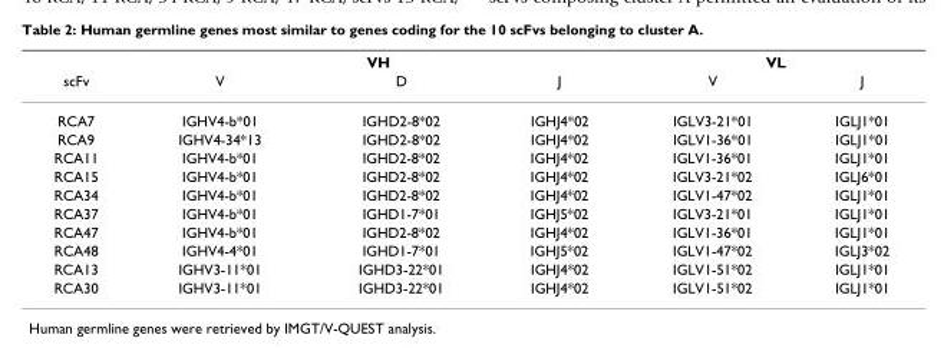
<table><thead><tr><td rowspan="2">scFv</td><td colspan="3">VH</td><td colspan="2">VL</td></tr><tr><td>V</td><td>D</td><td>J</td><td>V</td><td>J</td></tr></thead><tbody><tr><td>RCA7</td><td>IGHV4-b*01</td><td>IGHD2-8*02</td><td>IGHJ4*02</td><td>IGLV3-21*01</td><td>IGLJ1*01</td></tr><tr><td>RCA9</td><td>IGHV4-34*13</td><td>IGHD2-8*02</td><td>IGHJ4*02</td><td>IGLV1-36*01</td><td>IGLJ1*01</td></tr><tr><td>RCA11</td><td>IGHV4-b*01</td><td>IGHD2-8*02</td><td>IGHJ4*02</td><td>IGLV1-36*01</td><td>IGLJ1*01</td></tr><tr><td>RCA15</td><td>IGHV4-b*01</td><td>IGHD2-8*02</td><td>IGHJ4*02</td><td>IGLV3-21*02</td><td>IGLJ6*01</td></tr><tr><td>RCA34</td><td>IGHV4-b*01</td><td>IGHD2-8*02</td><td>IGHJ4*02</td><td>IGLV1-47*02</td><td>IGLJ1*01</td></tr><tr><td>RCA37</td><td>IGHV4-b*01</td><td>IGHD1-7*01</td><td>IGHJ5*02</td><td>IGLV3-21*01</td><td>IGLJ1*01</td></tr><tr><td>RCA47</td><td>IGHV4-b*01</td><td>IGHD2-8*02</td><td>IGHJ4*02</td><td>IGLV1-36*01</td><td>IGLJ1*01</td></tr><tr><td>RCA48</td><td>IGHV4-4*01</td><td>IGHD1-7*01</td><td>IGHJ5*02</td><td>IGLV1-47*02</td><td>IGLJ3*02</td></tr><tr><td>RCA13</td><td>IGHV3-11*01</td><td>IGHD3-22*01</td><td>IGHJ4*02</td><td>IGLV1-51*02</td><td>IGLJ1*01</td></tr><tr><td>RCA30</td><td>IGHV3-11*01</td><td>IGHD3-22*01</td><td>IGHJ4*02</td><td>IGLV1-51*02</td><td>IGLJ1*01</td></tr></tbody></table>